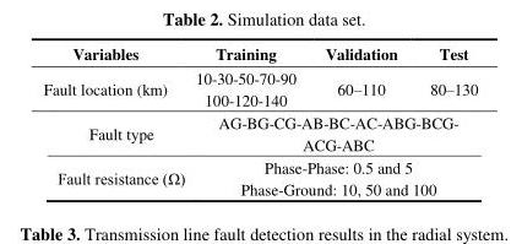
<table><thead><tr><td>Variables</td><td>Training</td><td>Validation</td><td>Test</td></tr></thead><tbody><tr><td>Fault location (km)</td><td>10-30-50-70-90 100-120-140</td><td>60–110</td><td>80–130</td></tr><tr><td>Fault type</td><td colspan="3">AG-BG-CG-AB-BC-AC-ABG-BCG- ACG-ABC</td></tr><tr><td>Fault resistance (Ω)</td><td colspan="3">Phase-Phase: 0.5 and 5 Phase-Ground: 10, 50 and 100</td></tr></tbody></table>